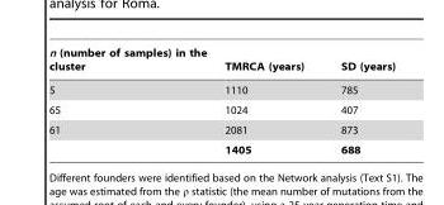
<table><thead><tr><td>n (number of samples) in the cluster</td><td>TMRCA (years)</td><td>SD (years)</td></tr></thead><tbody><tr><td>5</td><td>1110</td><td>785</td></tr><tr><td>65</td><td>1024</td><td>407</td></tr><tr><td rowspan="2">61</td><td>2081</td><td>873</td></tr><tr><td>1405</td><td>688</td></tr></tbody></table>